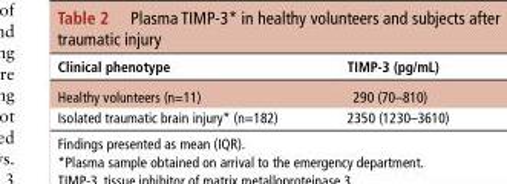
<table><thead><tr><td>Clinical phenotype</td><td>TImP-3 (pg/mL)</td></tr></thead><tbody><tr><td>Healthy volunteers (n=11)</td><td>290 (70–810)</td></tr><tr><td>Isolated traumatic brain injury* (n=182)</td><td>2350 (1230–3610)</td></tr></tbody></table>